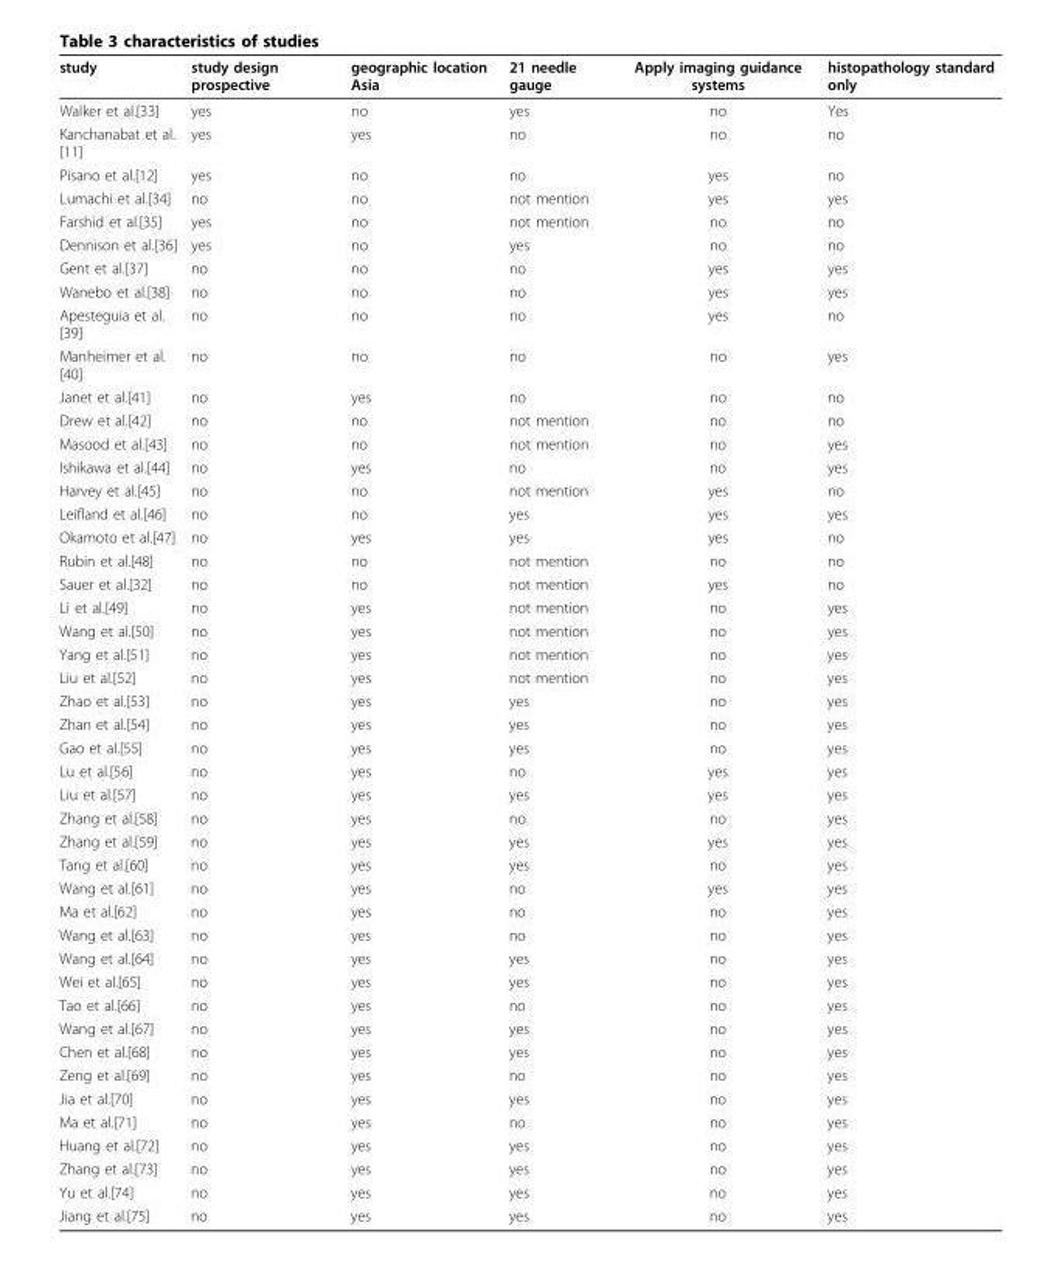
<table><thead><tr><td>study</td><td>study design prospective</td><td>geographic location Asia</td><td>21 needle gauge</td><td>Apply imaging guidance systems</td><td>histopathology standard only</td></tr></thead><tbody><tr><td>Walker et al.[33]</td><td>yes</td><td>no</td><td>yes</td><td>no</td><td>Yes</td></tr><tr><td>Kanchanabat et al. [11]</td><td>yes</td><td>yes</td><td>no</td><td>no</td><td>no</td></tr><tr><td>Pisano et al.[12]</td><td>yes</td><td>no</td><td>no</td><td>yes</td><td>no</td></tr><tr><td>Lumachi et al.[34]</td><td>no</td><td>no</td><td>not mention</td><td>yes</td><td>yes</td></tr><tr><td>Farshid et al.[35]</td><td>yes</td><td>no</td><td>not mention</td><td>no</td><td>no</td></tr><tr><td>Dennison et al.[36]</td><td>yes</td><td>no</td><td>yes</td><td>no</td><td>no</td></tr><tr><td>Gent et al.[37]</td><td>no</td><td>no</td><td>no</td><td>yes</td><td>yes</td></tr><tr><td>Wanebo et al.[38]</td><td>no</td><td>no</td><td>no</td><td>yes</td><td>yes</td></tr><tr><td>Apesteguia et al. [39]</td><td>no</td><td>no</td><td>no</td><td>yes</td><td>no</td></tr><tr><td>Manheimer et al. [40]</td><td>no</td><td>no</td><td>no</td><td>no</td><td>yes</td></tr><tr><td>Janet et al.[41]</td><td>no</td><td>yes</td><td>no</td><td>no</td><td>no</td></tr><tr><td>Drew et al.[42]</td><td>no</td><td>no</td><td>not mention</td><td>no</td><td>no</td></tr><tr><td>Masood et al.[43]</td><td>no</td><td>no</td><td>not mention</td><td>no</td><td>yes</td></tr><tr><td>Ishikawa et al.[44]</td><td>no</td><td>yes</td><td>no</td><td>no</td><td>yes</td></tr><tr><td>Harvey et al.[45]</td><td>no</td><td>no</td><td>not mention</td><td>yes</td><td>no</td></tr><tr><td>Leifland et al.[46]</td><td>no</td><td>no</td><td>yes</td><td>yes</td><td>yes</td></tr><tr><td>Okamoto et al.[47]</td><td>no</td><td>yes</td><td>yes</td><td>yes</td><td>no</td></tr><tr><td>Rubin et al.[48]</td><td>no</td><td>no</td><td>not mention</td><td>no</td><td>no</td></tr><tr><td>Sauer et al.[32]</td><td>no</td><td>no</td><td>not mention</td><td>yes</td><td>no</td></tr><tr><td>Li et al.[49]</td><td>no</td><td>yes</td><td>not mention</td><td>no</td><td>yes</td></tr><tr><td>Wang et al.[50]</td><td>no</td><td>yes</td><td>not mention</td><td>no</td><td>yes</td></tr><tr><td>Yang et al.[51]</td><td>no</td><td>yes</td><td>not mention</td><td>no</td><td>yes</td></tr><tr><td>Liu et al.[52]</td><td>no</td><td>yes</td><td>not mention</td><td>no</td><td>yes</td></tr><tr><td>Zhao et al.[53]</td><td>no</td><td>yes</td><td>yes</td><td>no</td><td>yes</td></tr><tr><td>Zhan et al.[54]</td><td>no</td><td>yes</td><td>yes</td><td>no</td><td>yes</td></tr><tr><td>Gao et al.[55]</td><td>no</td><td>yes</td><td>yes</td><td>no</td><td>yes</td></tr><tr><td>Lu et al.[56]</td><td>no</td><td>yes</td><td>no</td><td>yes</td><td>yes</td></tr><tr><td>Liu et al.[57]</td><td>no</td><td>yes</td><td>yes</td><td>yes</td><td>yes</td></tr><tr><td>Zhang et al.[58]</td><td>no</td><td>yes</td><td>no</td><td>no</td><td>yes</td></tr><tr><td>Zhang et al.[59]</td><td>no</td><td>yes</td><td>yes</td><td>yes</td><td>yes</td></tr><tr><td>Tang et al.[60]</td><td>no</td><td>yes</td><td>yes</td><td>no</td><td>yes</td></tr><tr><td>Wang et al.[61]</td><td>no</td><td>yes</td><td>no</td><td>yes</td><td>yes</td></tr><tr><td>Ma et al.[62]</td><td>no</td><td>yes</td><td>no</td><td>no</td><td>yes</td></tr><tr><td>Wang et al.[63]</td><td>no</td><td>yes</td><td>no</td><td>no</td><td>yes</td></tr><tr><td>Wang et al.[64]</td><td>no</td><td>yes</td><td>yes</td><td>no</td><td>yes</td></tr><tr><td>Wei et al.[65]</td><td>no</td><td>yes</td><td>yes</td><td>no</td><td>yes</td></tr><tr><td>Tao et al.[66]</td><td>no</td><td>yes</td><td>no</td><td>no</td><td>yes</td></tr><tr><td>Wang et al.[67]</td><td>no</td><td>yes</td><td>yes</td><td>no</td><td>yes</td></tr><tr><td>Chen et al.[68]</td><td>no</td><td>yes</td><td>yes</td><td>no</td><td>yes</td></tr><tr><td>Zeng et al.[69]</td><td>no</td><td>yes</td><td>no</td><td>no</td><td>yes</td></tr><tr><td>Jia et al.[70]</td><td>no</td><td>yes</td><td>yes</td><td>no</td><td>yes</td></tr><tr><td>Ma et al.[71]</td><td>no</td><td>yes</td><td>no</td><td>no</td><td>yes</td></tr><tr><td>Huang et al.[72]</td><td>no</td><td>yes</td><td>yes</td><td>no</td><td>yes</td></tr><tr><td>Zhang et al.[73]</td><td>no</td><td>yes</td><td>yes</td><td>no</td><td>yes</td></tr><tr><td>Yu et al.[74]</td><td>no</td><td>yes</td><td>yes</td><td>no</td><td>yes</td></tr><tr><td>Jiang et al.[75]</td><td>no</td><td>yes</td><td>yes</td><td>no</td><td>yes</td></tr></tbody></table>